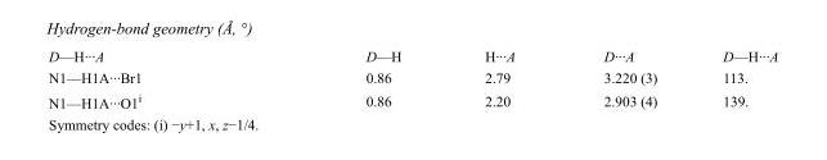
<table><tbody><tr><td>D—H···A</td><td>D—H</td><td>H···A</td><td>D···A</td><td>D—H···A</td></tr><tr><td>N1—H1A···Br1</td><td>0.86</td><td>2.79</td><td>3.220 (3)</td><td>113.</td></tr><tr><td>N1—H1A···O1<sup>i</sup></td><td>0.86</td><td>2.20</td><td>2.903 (4)</td><td>139.</td></tr></tbody></table>